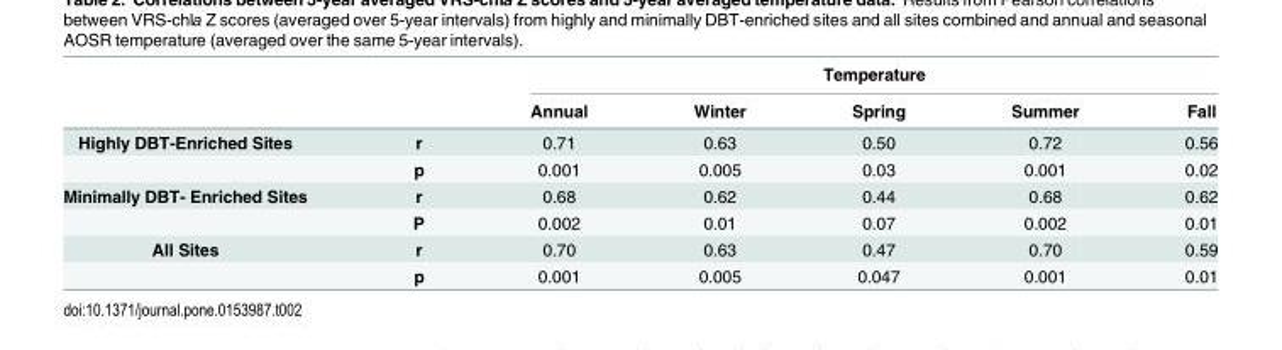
<table><thead><tr><td rowspan="2"></td><td rowspan="2"></td><td colspan="5">Temperature</td></tr><tr><td>Annual</td><td>Winter</td><td>Spring</td><td>Summer</td><td>Fall</td></tr></thead><tbody><tr><td rowspan="2">Highly DBT-Enriched Sites</td><td>r</td><td>0.71</td><td>0.63</td><td>0.50</td><td>0.72</td><td>0.56</td></tr><tr><td>p</td><td>0.001</td><td>0.005</td><td>0.03</td><td>0.001</td><td>0.02</td></tr><tr><td rowspan="2">Minimally DBT- Enriched Sites</td><td>r</td><td>0.68</td><td>0.62</td><td>0.44</td><td>0.68</td><td>0.62</td></tr><tr><td>P</td><td>0.002</td><td>0.01</td><td>0.07</td><td>0.002</td><td>0.01</td></tr><tr><td rowspan="2">All Sites</td><td>r</td><td>0.70</td><td>0.63</td><td>0.47</td><td>0.70</td><td>0.59</td></tr><tr><td>p</td><td>0.001</td><td>0.005</td><td>0.047</td><td>0.001</td><td>0.01</td></tr></tbody></table>